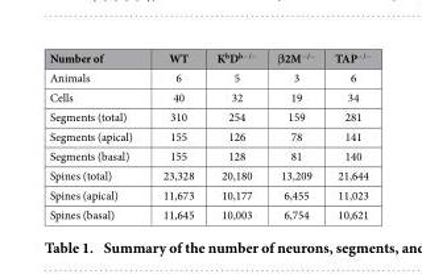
<table><thead><tr><td>Number of</td><td>WT</td><td>K<sup>b</sup>D<sup>b−/−</sup></td><td>β2M<sup>−/−</sup></td><td>TAP<sup>−/−</sup></td></tr></thead><tbody><tr><td>Animals</td><td>6</td><td>5</td><td>3</td><td>6</td></tr><tr><td>Cells</td><td>40</td><td>32</td><td>19</td><td>34</td></tr><tr><td>Segments (total)</td><td>310</td><td>254</td><td>159</td><td>281</td></tr><tr><td>Segments (apical)</td><td>155</td><td>126</td><td>78</td><td>141</td></tr><tr><td>Segments (basal)</td><td>155</td><td>128</td><td>81</td><td>140</td></tr><tr><td>Spines (total)</td><td>23,328</td><td>20,180</td><td>13,209</td><td>21,644</td></tr><tr><td>Spines (apical)</td><td>11,673</td><td>10,177</td><td>6,455</td><td>11,023</td></tr><tr><td>Spines (basal)</td><td>11,645</td><td>10,003</td><td>6,754</td><td>10,621</td></tr></tbody></table>